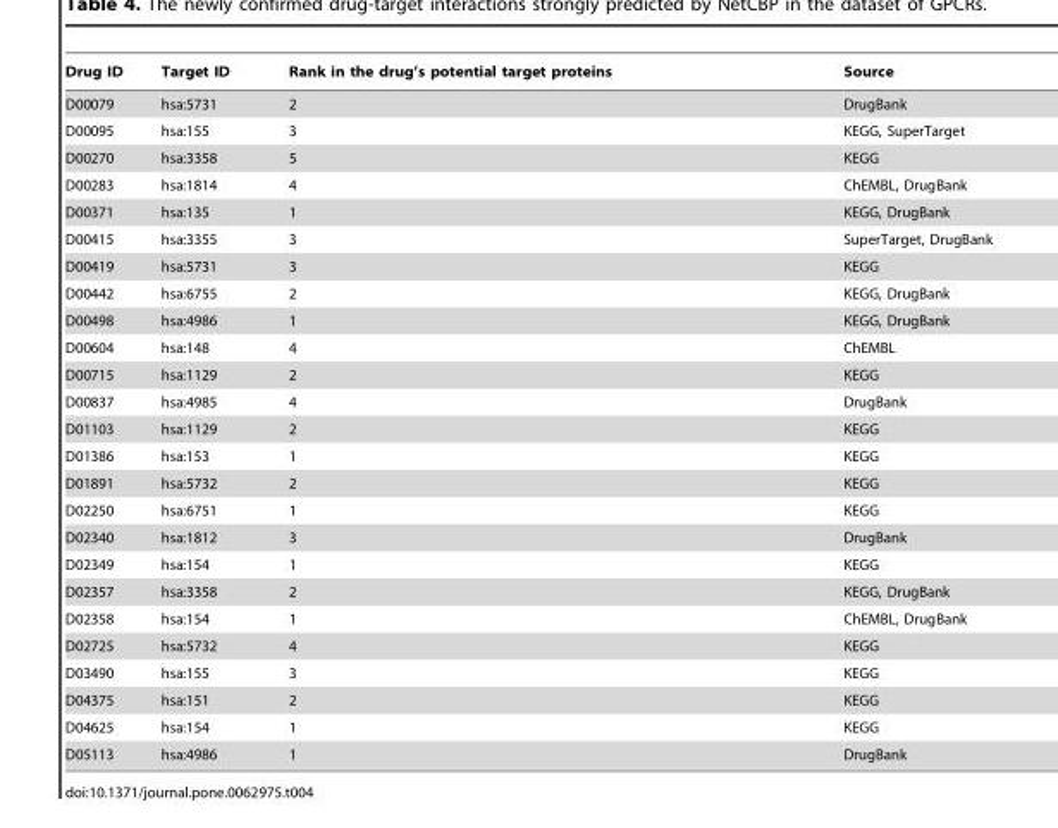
<table><thead><tr><td>Drug ID</td><td>Target ID</td><td>Rank in the drug’s potential target proteins</td><td>Source</td></tr></thead><tbody><tr><td>D00079</td><td>hsa:5731</td><td>2</td><td>DrugBank</td></tr><tr><td>D00095</td><td>hsa:155</td><td>3</td><td>KEGG, SuperTarget</td></tr><tr><td>D00270</td><td>hsa:3358</td><td>5</td><td>KEGG</td></tr><tr><td>D00283</td><td>hsa:1814</td><td>4</td><td>ChEMBL, DrugBank</td></tr><tr><td>D00371</td><td>hsa:135</td><td>1</td><td>KEGG, DrugBank</td></tr><tr><td>D00415</td><td>hsa:3355</td><td>3</td><td>SuperTarget, DrugBank</td></tr><tr><td>D00419</td><td>hsa:5731</td><td>3</td><td>KEGG</td></tr><tr><td>D00442</td><td>hsa:6755</td><td>2</td><td>KEGG, DrugBank</td></tr><tr><td>D00498</td><td>hsa:4986</td><td>1</td><td>KEGG, DrugBank</td></tr><tr><td>D00604</td><td>hsa:148</td><td>4</td><td>ChEMBL</td></tr><tr><td>D00715</td><td>hsa:1129</td><td>2</td><td>KEGG</td></tr><tr><td>D00837</td><td>hsa:4985</td><td>4</td><td>DrugBank</td></tr><tr><td>D01103</td><td>hsa:1129</td><td>2</td><td>KEGG</td></tr><tr><td>D01386</td><td>hsa:153</td><td>1</td><td>KEGG</td></tr><tr><td>D01891</td><td>hsa:5732</td><td>2</td><td>KEGG</td></tr><tr><td>D02250</td><td>hsa:6751</td><td>1</td><td>KEGG</td></tr><tr><td>D02340</td><td>hsa:1812</td><td>3</td><td>DrugBank</td></tr><tr><td>D02349</td><td>hsa:154</td><td>1</td><td>KEGG</td></tr><tr><td>D02357</td><td>hsa:3358</td><td>2</td><td>KEGG, DrugBank</td></tr><tr><td>D02358</td><td>hsa:154</td><td>1</td><td>ChEMBL, DrugBank</td></tr><tr><td>D02725</td><td>hsa:5732</td><td>4</td><td>KEGG</td></tr><tr><td>D03490</td><td>hsa:155</td><td>3</td><td>KEGG</td></tr><tr><td>D04375</td><td>hsa:151</td><td>2</td><td>KEGG</td></tr><tr><td>D04625</td><td>hsa:154</td><td>1</td><td>KEGG</td></tr><tr><td>D05113</td><td>hsa:4986</td><td>1</td><td>DrugBank</td></tr></tbody></table>